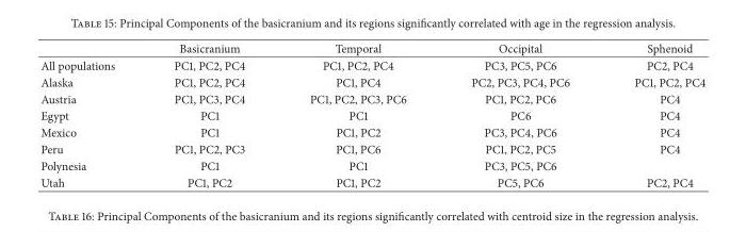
<table><thead><tr><td></td><td>Basicranium</td><td>Temporal</td><td>Occipital</td><td>Sphenoid</td></tr></thead><tbody><tr><td>All populations</td><td>PC1, PC2, PC4</td><td>PC1, PC2, PC4</td><td>PC3, PC5, PC6</td><td>PC2, PC4</td></tr><tr><td>Alaska</td><td>PC1, PC2, PC4</td><td>PC1, PC4</td><td>PC2, PC3, PC4, PC6</td><td>PC1, PC2, PC4</td></tr><tr><td>Austria</td><td>PC1, PC3, PC4</td><td>PC1, PC2, PC3, PC6</td><td>PC1, PC2, PC6</td><td>PC4</td></tr><tr><td>Egypt</td><td>PC1</td><td>PC1</td><td>PC6</td><td>PC4</td></tr><tr><td>Mexico</td><td>PC1</td><td>PC1, PC2</td><td>PC3, PC4, PC6</td><td>PC4</td></tr><tr><td>Peru</td><td>PC1, PC2, PC3</td><td>PC1, PC6</td><td>PC1, PC2, PC5</td><td>PC4</td></tr><tr><td>Polynesia</td><td>PC1</td><td>PC1</td><td>PC3, PC5, PC6</td><td></td></tr><tr><td>Utah</td><td>PC1, PC2</td><td>PC1, PC2</td><td>PC5, PC6</td><td>PC2, PC4</td></tr></tbody></table>